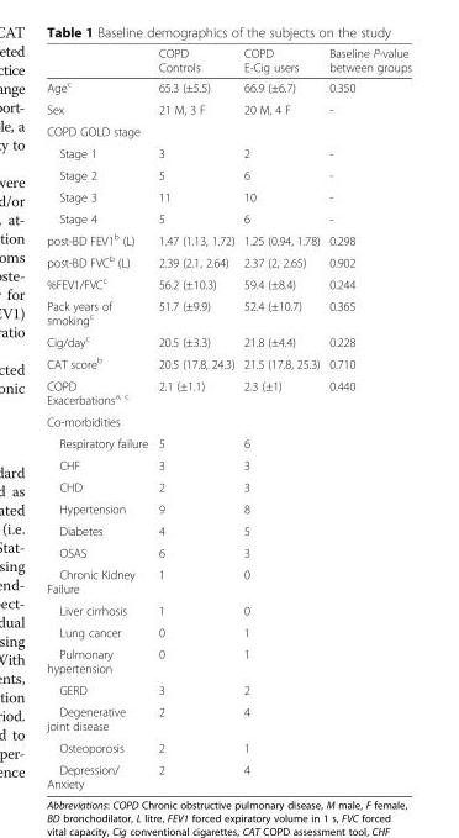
<table><thead><tr><td></td><td>COPD Controls</td><td>COPD E-Cig users</td><td>Baseline P-value between groups</td></tr></thead><tbody><tr><td>Age<sup>c</sup></td><td>65.3 (±5.5)</td><td>66.9 (±6.7)</td><td>0.350</td></tr><tr><td>Sex</td><td>21 M, 3 F</td><td>20 M, 4 F</td><td>-</td></tr><tr><td colspan="4">COPD GOLD stage</td></tr><tr><td>Stage 1</td><td>3</td><td>2</td><td>-</td></tr><tr><td>Stage 2</td><td>5</td><td>6</td><td>-</td></tr><tr><td>Stage 3</td><td>11</td><td>10</td><td>-</td></tr><tr><td>Stage 4</td><td>5</td><td>6</td><td>-</td></tr><tr><td>post-BD FEV1<sup>b</sup> (L)</td><td>1.47 (1.13, 1.72)</td><td>1.25 (0.94, 1.78)</td><td>0.298</td></tr><tr><td>post-BD FVC<sup>b</sup> (L)</td><td>2.39 (2.1, 2.64)</td><td>2.37 (2, 2.65)</td><td>0.902</td></tr><tr><td>%FEV1/FVC<sup>c</sup></td><td>56.2 (±10.3)</td><td>59.4 (±8.4)</td><td>0.244</td></tr><tr><td>Pack years of smoking<sup>c</sup></td><td>51.7 (±9.9)</td><td>52.4 (±10.7)</td><td>0.365</td></tr><tr><td>Cig/day<sup>c</sup></td><td>20.5 (±3.3)</td><td>21.8 (±4.4)</td><td>0.228</td></tr><tr><td>CAT score<sup>b</sup></td><td>20.5 (17.8, 24.3)</td><td>21.5 (17.8, 25.3)</td><td>0.710</td></tr><tr><td>COPD Exacerbations<sup>a, c</sup></td><td>2.1 (±1.1)</td><td>2.3 (±1)</td><td>0.440</td></tr><tr><td colspan="4">Co-morbidities</td></tr><tr><td>Respiratory failure</td><td>5</td><td>6</td><td></td></tr><tr><td>CHF</td><td>3</td><td>3</td><td></td></tr><tr><td>CHD</td><td>2</td><td>3</td><td></td></tr><tr><td>Hypertension</td><td>9</td><td>8</td><td></td></tr><tr><td>Diabetes</td><td>4</td><td>5</td><td></td></tr><tr><td>OSAS</td><td>6</td><td>3</td><td></td></tr><tr><td>Chronic Kidney Failure</td><td>1</td><td>0</td><td></td></tr><tr><td>Liver cirrhosis</td><td>1</td><td>0</td><td></td></tr><tr><td>Lung cancer</td><td>0</td><td>1</td><td></td></tr><tr><td>Pulmonary hypertension</td><td>0</td><td>1</td><td></td></tr><tr><td>GERD</td><td>3</td><td>2</td><td></td></tr><tr><td>Degenerative joint disease</td><td>2</td><td>4</td><td></td></tr><tr><td>Osteoporosis</td><td>2</td><td>1</td><td></td></tr><tr><td>Depression/ Anxiety</td><td>2</td><td>4</td><td></td></tr></tbody></table>